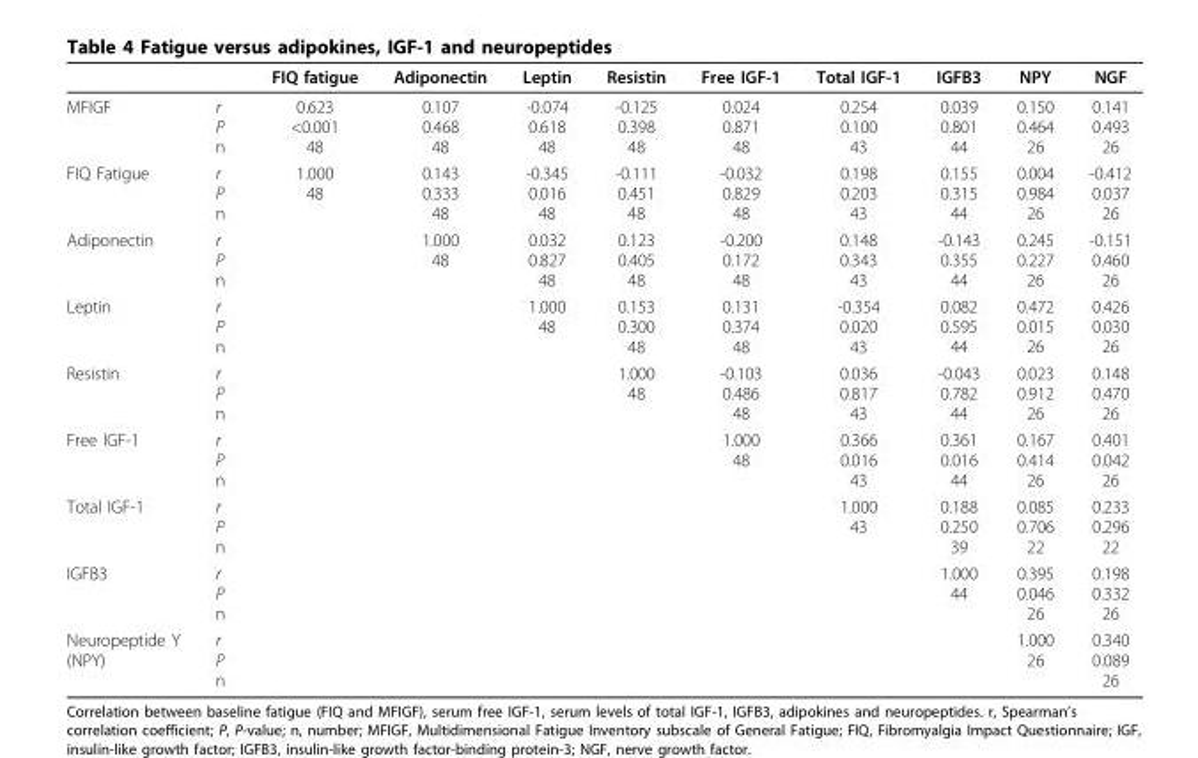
<table><thead><tr><td></td><td></td><td>FIQ fatigue</td><td>Adiponectin</td><td>Leptin</td><td>Resistin</td><td>Free IGF-1</td><td>Total IGF-1</td><td>IGFB3</td><td>NPY</td><td>NGF</td></tr></thead><tbody><tr><td>MFIGF</td><td>r P n</td><td>0.623 &lt;0.001 48</td><td>0.107 0.468 48</td><td>-0.074 0.618 48</td><td>-0.125 0.398 48</td><td>0.024 0.871 48</td><td>0.254 0.100 43</td><td>0.039 0.801 44</td><td>0.150 0.464 26</td><td>0.141 0.493 26</td></tr><tr><td>FIQ Fatigue</td><td>r P n</td><td>1.000 48</td><td>0.143 0.333 48</td><td>-0.345 0.016 48</td><td>-0.111 0.451 48</td><td>-0.032 0.829 48</td><td>0.198 0.203 43</td><td>0.155 0.315 44</td><td>0.004 0.984 26</td><td>-0.412 0.037 26</td></tr><tr><td>Adiponectin</td><td>r P n</td><td></td><td>1.000 48</td><td>0.032 0.827 48</td><td>0.123 0.405 48</td><td>-0.200 0.172 48</td><td>0.148 0.343 43</td><td>-0.143 0.355 44</td><td>0.245 0.227 26</td><td>-0.151 0.460 26</td></tr><tr><td>Leptin</td><td>r P n</td><td></td><td></td><td>1.000 48</td><td>0.153 0.300 48</td><td>0.131 0.374 48</td><td>-0.354 0.020 43</td><td>0.082 0.595 44</td><td>0.472 0.015 26</td><td>0.426 0.030 26</td></tr><tr><td>Resistin</td><td>r P n</td><td></td><td></td><td></td><td>1.000 48</td><td>-0.103 0.486 48</td><td>0.036 0.817 43</td><td>-0.043 0.782 44</td><td>0.023 0.912 26</td><td>0.148 0.470 26</td></tr><tr><td>Free IGF-1</td><td>r P n</td><td></td><td></td><td></td><td></td><td>1.000 48</td><td>0.366 0.016 43</td><td>0.361 0.016 44</td><td>0.167 0.414 26</td><td>0.401 0.042 26</td></tr><tr><td>Total IGF-1</td><td>r P n</td><td></td><td></td><td></td><td></td><td></td><td>1.000 43</td><td>0.188 0.250 39</td><td>0.085 0.706 22</td><td>0.233 0.296 22</td></tr><tr><td>IGFB3</td><td>r P n</td><td></td><td></td><td></td><td></td><td></td><td></td><td>1.000 44</td><td>0.395 0.046 26</td><td>0.198 0.332 26</td></tr><tr><td>Neuropeptide Y (NPY)</td><td>r P n</td><td></td><td></td><td></td><td></td><td></td><td></td><td></td><td>1.000 26</td><td>0.340 0.089 26</td></tr></tbody></table>